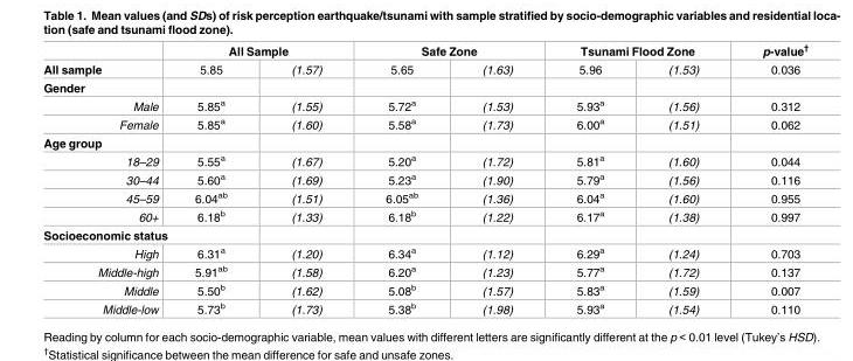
<table><thead><tr><td rowspan="2">All sample</td><td colspan="2">All Sample</td><td colspan="2">Safe Zone</td><td colspan="2">Tsunami Flood Zone</td><td rowspan="2">p-value<sup>†</sup> 0.036</td></tr><tr><td>5.85</td><td>(1.57)</td><td>5.65</td><td>(1.63)</td><td>5.96</td><td>(1.53)</td></tr></thead><tbody><tr><td colspan="8">Gender</td></tr><tr><td>Male</td><td>5.85<sup>a</sup></td><td>(1.55)</td><td>5.72<sup>a</sup></td><td>(1.53)</td><td>5.93<sup>a</sup></td><td>(1.56)</td><td>0.312</td></tr><tr><td>Female</td><td>5.85<sup>a</sup></td><td>(1.60)</td><td>5.58<sup>a</sup></td><td>(1.73)</td><td>6.00<sup>a</sup></td><td>(1.51)</td><td>0.062</td></tr><tr><td colspan="8">Age group</td></tr><tr><td>18–29</td><td>5.55<sup>a</sup></td><td>(1.67)</td><td>5.20<sup>a</sup></td><td>(1.72)</td><td>5.81<sup>a</sup></td><td>(1.60)</td><td>0.044</td></tr><tr><td>30–44</td><td>5.60<sup>a</sup></td><td>(1.69)</td><td>5.23<sup>a</sup></td><td>(1.90)</td><td>5.79<sup>a</sup></td><td>(1.56)</td><td>0.116</td></tr><tr><td>45–59</td><td>6.04<sup>ab</sup></td><td>(1.51)</td><td>6.05<sup>ab</sup></td><td>(1.36)</td><td>6.04<sup>a</sup></td><td>(1.60)</td><td>0.955</td></tr><tr><td>60+</td><td>6.18<sup>b</sup></td><td>(1.33)</td><td>6.18<sup>b</sup></td><td>(1.22)</td><td>6.17<sup>a</sup></td><td>(1.38)</td><td>0.997</td></tr><tr><td colspan="8">Socioeconomic status</td></tr><tr><td>High</td><td>6.31<sup>a</sup></td><td>(1.20)</td><td>6.34<sup>a</sup></td><td>(1.12)</td><td>6.29<sup>a</sup></td><td>(1.24)</td><td>0.703</td></tr><tr><td>Middle-high</td><td>5.91<sup>ab</sup></td><td>(1.58)</td><td>6.20<sup>a</sup></td><td>(1.23)</td><td>5.77<sup>a</sup></td><td>(1.72)</td><td>0.137</td></tr><tr><td>Middle</td><td>5.50<sup>b</sup></td><td>(1.62)</td><td>5.08<sup>b</sup></td><td>(1.57)</td><td>5.83<sup>a</sup></td><td>(1.59)</td><td>0.007</td></tr><tr><td>Middle-low</td><td>5.73<sup>b</sup></td><td>(1.73)</td><td>5.38<sup>b</sup></td><td>(1.98)</td><td>5.93<sup>a</sup></td><td>(1.54)</td><td>0.110</td></tr></tbody></table>